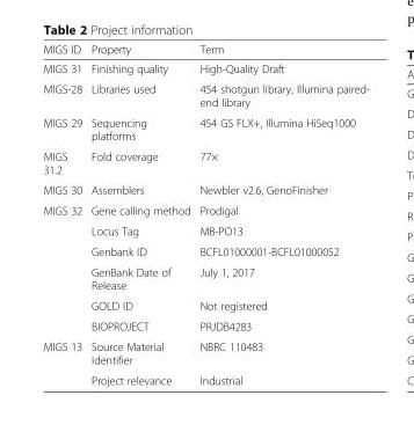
<table><thead><tr><td>MIGS ID</td><td>Property</td><td>Term</td></tr></thead><tbody><tr><td>MIGS 31</td><td>Finishing quality</td><td>High-Quality Draft</td></tr><tr><td>MIGS-28</td><td>Libraries used</td><td>454 shotgun library, Illumina paired- end library</td></tr><tr><td>MIGS 29</td><td>Sequencing platforms</td><td>454 GS FLX+, Illumina HiSeq1000</td></tr><tr><td>MIGS 31.2</td><td>Fold coverage</td><td>77×</td></tr><tr><td>MIGS 30</td><td>Assemblers</td><td>Newbler v2.6, GenoFinisher</td></tr><tr><td rowspan="6">MIGS 32</td><td>Gene calling method</td><td>Prodigal</td></tr><tr><td>Locus Tag</td><td>MB-PO13</td></tr><tr><td>Genbank ID</td><td>BCFL01000001-BCFL01000052</td></tr><tr><td>GenBank Date of Release</td><td>July 1, 2017</td></tr><tr><td>GOLD ID</td><td>Not registered</td></tr><tr><td>BIOPROJECT</td><td>PRJDB4283</td></tr><tr><td rowspan="2">MIGS 13</td><td>Source Material Identifier</td><td>NBRC 110483</td></tr><tr><td>Project relevance</td><td>Industrial</td></tr></tbody></table>